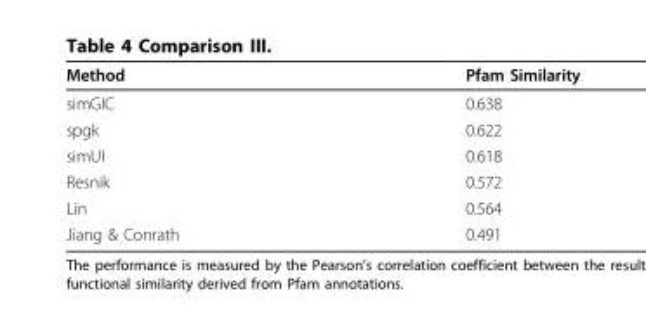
<table><thead><tr><td>Method</td><td>Pfam Similarity</td></tr></thead><tbody><tr><td>simGIC</td><td>0.638</td></tr><tr><td>spgk</td><td>0.622</td></tr><tr><td>simUI</td><td>0.618</td></tr><tr><td>Resnik</td><td>0.572</td></tr><tr><td>Lin</td><td>0.564</td></tr><tr><td>Jiang &amp; Conrath</td><td>0.491</td></tr></tbody></table>